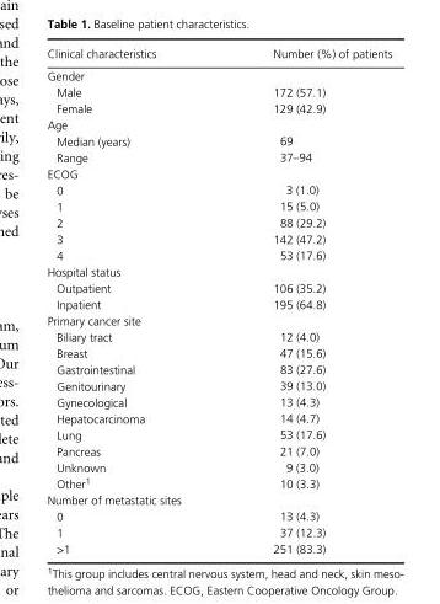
<table><thead><tr><td>Clinical characteristics</td><td>Number (%) of patients</td></tr></thead><tbody><tr><td colspan="2">Gender</td></tr><tr><td>Male</td><td>172 (57.1)</td></tr><tr><td>Female</td><td>129 (42.9)</td></tr><tr><td colspan="2">Age</td></tr><tr><td>Median (years)</td><td>69</td></tr><tr><td>Range</td><td>37–94</td></tr><tr><td colspan="2">ECOG</td></tr><tr><td>0</td><td>3 (1.0)</td></tr><tr><td>1</td><td>15 (5.0)</td></tr><tr><td>2</td><td>88 (29.2)</td></tr><tr><td>3</td><td>142 (47.2)</td></tr><tr><td>4</td><td>53 (17.6)</td></tr><tr><td colspan="2">Hospital status</td></tr><tr><td>Outpatient</td><td>106 (35.2)</td></tr><tr><td>Inpatient</td><td>195 (64.8)</td></tr><tr><td colspan="2">Primary cancer site</td></tr><tr><td>Biliary tract</td><td>12 (4.0)</td></tr><tr><td>Breast</td><td>47 (15.6)</td></tr><tr><td>Gastrointestinal</td><td>83 (27.6)</td></tr><tr><td>Genitourinary</td><td>39 (13.0)</td></tr><tr><td>Gynecological</td><td>13 (4.3)</td></tr><tr><td>Hepatocarcinoma</td><td>14 (4.7)</td></tr><tr><td>Lung</td><td>53 (17.6)</td></tr><tr><td>Pancreas</td><td>21 (7.0)</td></tr><tr><td>Unknown</td><td>9 (3.0)</td></tr><tr><td>Other1</td><td>10 (3.3)</td></tr><tr><td colspan="2">Number of metastatic sites</td></tr><tr><td>0</td><td>13 (4.3)</td></tr><tr><td>1</td><td>37 (12.3)</td></tr><tr><td>&gt;1</td><td>251 (83.3)</td></tr></tbody></table>